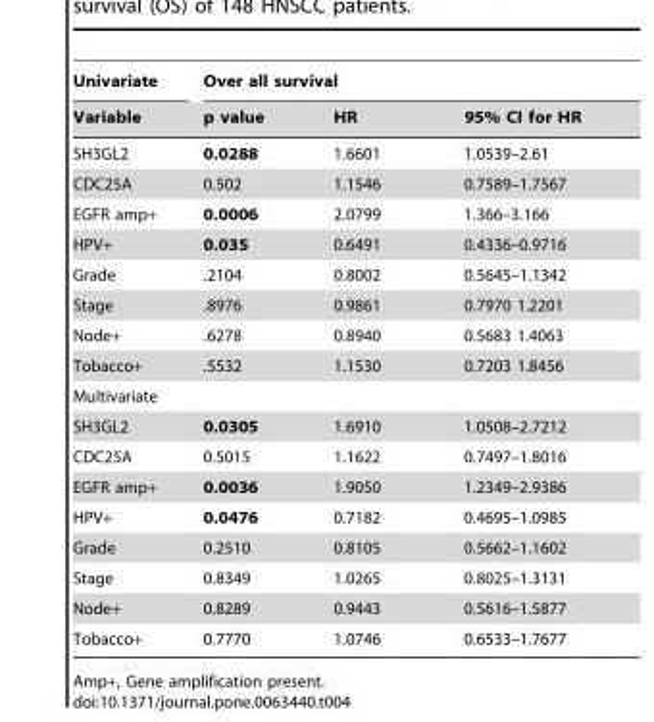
<table><thead><tr><td rowspan="2">Univariate Variable</td><td colspan="3">Over all survival</td></tr><tr><td>p value</td><td>HR</td><td>95% CI for HR</td></tr></thead><tbody><tr><td>SH3GL2</td><td>0.0288</td><td>1.6601</td><td>1.0539–2.61</td></tr><tr><td>CDC25A</td><td>0.502</td><td>1.1546</td><td>0.7589–1.7567</td></tr><tr><td>EGFR amp+</td><td>0.0006</td><td>2.0799</td><td>1.366–3.166</td></tr><tr><td>HPV+</td><td>0.035</td><td>0.6491</td><td>0.4336–0.9716</td></tr><tr><td>Grade</td><td>.2104</td><td>0.8002</td><td>0.5645–1.1342</td></tr><tr><td>Stage</td><td>.8976</td><td>0.9861</td><td>0.7970 1.2201</td></tr><tr><td>Node+</td><td>.6278</td><td>0.8940</td><td>0.5683 1.4063</td></tr><tr><td>Tobacco+</td><td>.5532</td><td>1.1530</td><td>0.7203 1.8456</td></tr><tr><td colspan="4">Multivariate</td></tr><tr><td>SH3GL2</td><td>0.0305</td><td>1.6910</td><td>1.0508–2.7212</td></tr><tr><td>CDC25A</td><td>0.5015</td><td>1.1622</td><td>0.7497–1.8016</td></tr><tr><td>EGFR amp+</td><td>0.0036</td><td>1.9050</td><td>1.2349–2.9386</td></tr><tr><td>HPV+</td><td>0.0476</td><td>0.7182</td><td>0.4695–1.0985</td></tr><tr><td>Grade</td><td>0.2510</td><td>0.8105</td><td>0.5662–1.1602</td></tr><tr><td>Stage</td><td>0.8349</td><td>1.0265</td><td>0.8025–1.3131</td></tr><tr><td>Node+</td><td>0.8289</td><td>0.9443</td><td>0.5616–1.5877</td></tr><tr><td>Tobacco+</td><td>0.7770</td><td>1.0746</td><td>0.6533–1.7677</td></tr></tbody></table>